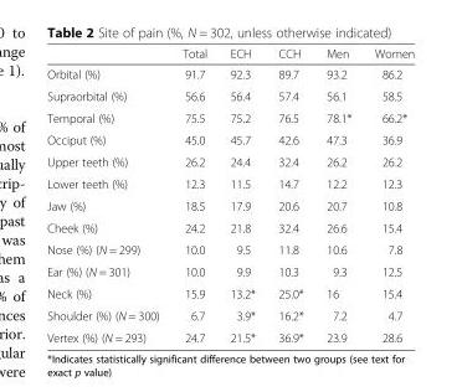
<table><thead><tr><td></td><td>Total</td><td>ECH</td><td>CCH</td><td>Men</td><td>Women</td></tr></thead><tbody><tr><td>Orbital (%)</td><td>91.7</td><td>92.3</td><td>89.7</td><td>93.2</td><td>86.2</td></tr><tr><td>Supraorbital (%)</td><td>56.6</td><td>56.4</td><td>57.4</td><td>56.1</td><td>58.5</td></tr><tr><td>Temporal (%)</td><td>75.5</td><td>75.2</td><td>76.5</td><td>78.1*</td><td>66.2*</td></tr><tr><td>Occiput (%)</td><td>45.0</td><td>45.7</td><td>42.6</td><td>47.3</td><td>36.9</td></tr><tr><td>Upper teeth (%)</td><td>26.2</td><td>24.4</td><td>32.4</td><td>26.2</td><td>26.2</td></tr><tr><td>Lower teeth (%)</td><td>12.3</td><td>11.5</td><td>14.7</td><td>12.2</td><td>12.3</td></tr><tr><td>Jaw (%)</td><td>18.5</td><td>17.9</td><td>20.6</td><td>20.7</td><td>10.8</td></tr><tr><td>Cheek (%)</td><td>24.2</td><td>21.8</td><td>32.4</td><td>26.6</td><td>15.4</td></tr><tr><td>Nose (%) (N = 299)</td><td>10.0</td><td>9.5</td><td>11.8</td><td>10.6</td><td>7.8</td></tr><tr><td>Ear (%) (N = 301)</td><td>10.0</td><td>9.9</td><td>10.3</td><td>9.3</td><td>12.5</td></tr><tr><td>Neck (%)</td><td>15.9</td><td>13.2*</td><td>25.0*</td><td>16</td><td>15.4</td></tr><tr><td>Shoulder (%) (N = 300)</td><td>6.7</td><td>3.9*</td><td>16.2*</td><td>7.2</td><td>4.7</td></tr><tr><td>Vertex (%) (N = 293)</td><td>24.7</td><td>21.5*</td><td>36.9*</td><td>23.9</td><td>28.6</td></tr></tbody></table>